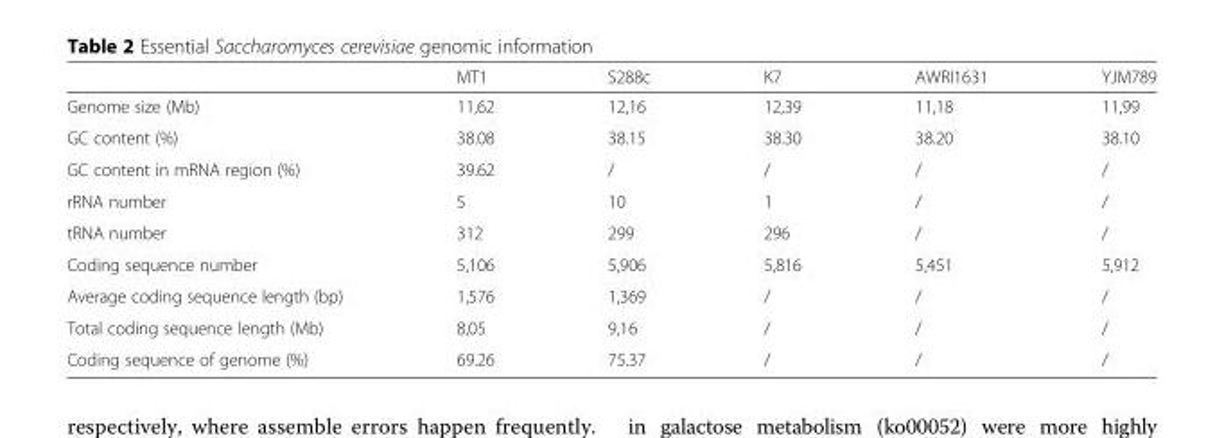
<table><thead><tr><td></td><td>MT1</td><td>S288c</td><td>K7</td><td>AWRI1631</td><td>YJM789</td></tr></thead><tbody><tr><td>Genome size (Mb)</td><td>11,62</td><td>12,16</td><td>12,39</td><td>11,18</td><td>11,99</td></tr><tr><td>GC content (%)</td><td>38.08</td><td>38.15</td><td>38.30</td><td>38.20</td><td>38.10</td></tr><tr><td>GC content in mRNA region (%)</td><td>39.62</td><td>/</td><td>/</td><td>/</td><td>/</td></tr><tr><td>rRNA number</td><td>5</td><td>10</td><td>1</td><td>/</td><td>/</td></tr><tr><td>tRNA number</td><td>312</td><td>299</td><td>296</td><td>/</td><td>/</td></tr><tr><td>Coding sequence number</td><td>5,106</td><td>5,906</td><td>5,816</td><td>5,451</td><td>5,912</td></tr><tr><td>Average coding sequence length (bp)</td><td>1,576</td><td>1,369</td><td>/</td><td>/</td><td>/</td></tr><tr><td>Total coding sequence length (Mb)</td><td>8,05</td><td>9,16</td><td>/</td><td>/</td><td>/</td></tr><tr><td>Coding sequence of genome (%)</td><td>69.26</td><td>75.37</td><td>/</td><td>/</td><td>/</td></tr></tbody></table>